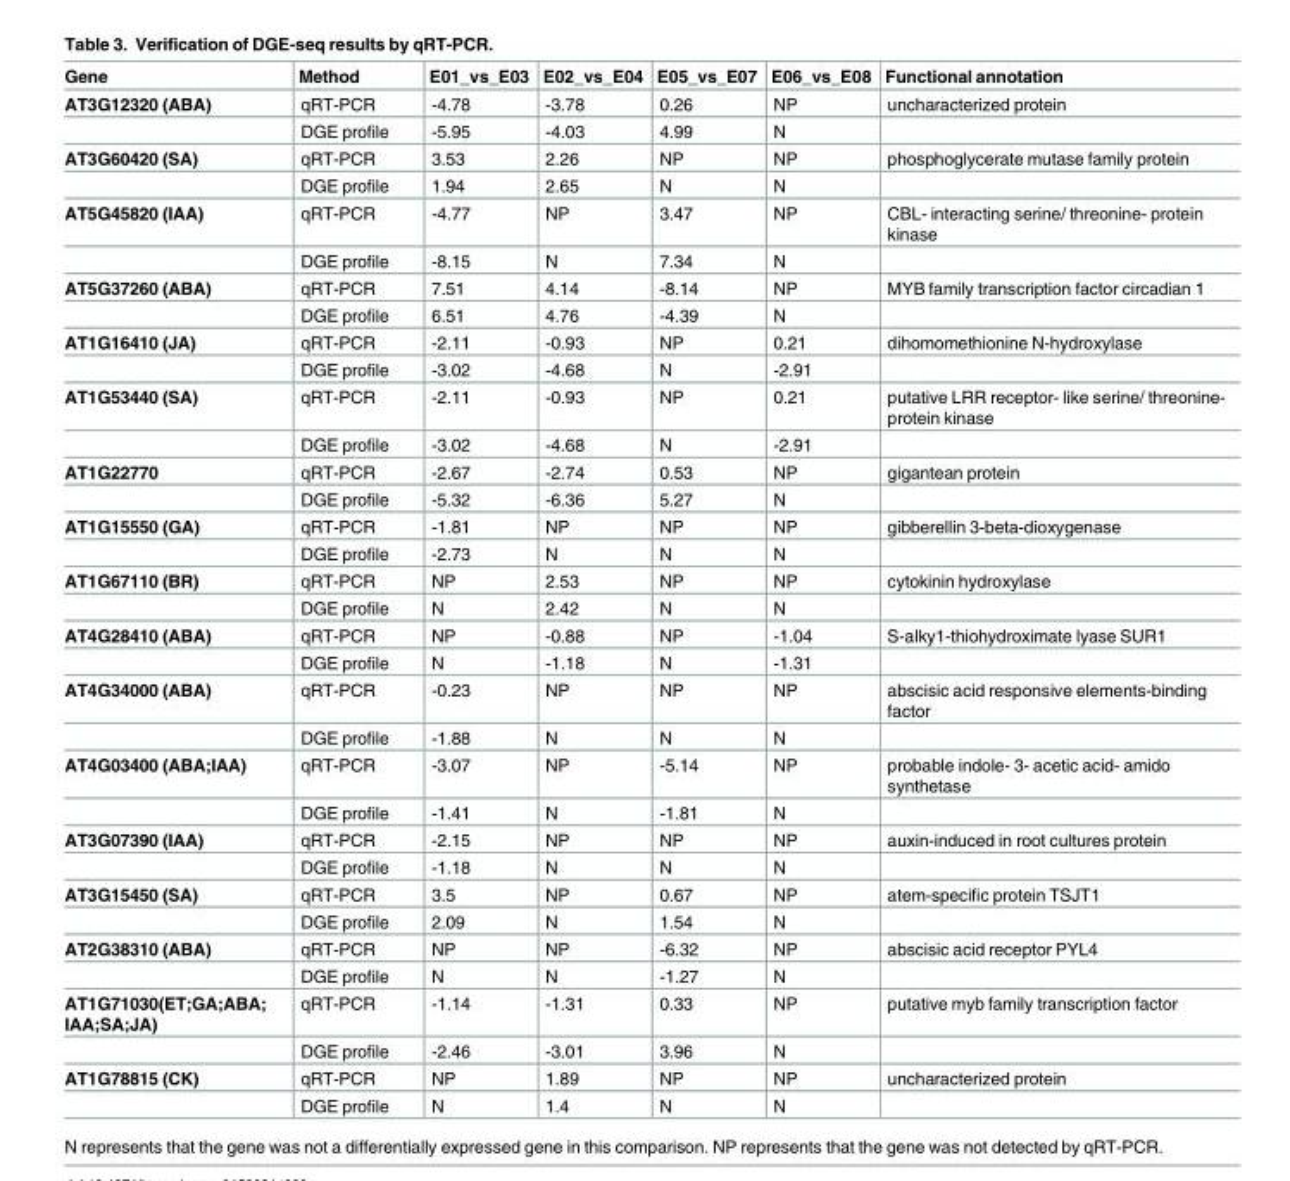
<table><thead><tr><td>Gene</td><td>Method</td><td>E01_vs_E03</td><td>E02_vs_E04</td><td>E05_vs_E07</td><td>E06_vs_E08</td><td>Functional annotation</td></tr></thead><tbody><tr><td rowspan="2">AT3G12320 (ABA)</td><td>qRT-PCR</td><td>-4.78</td><td>-3.78</td><td>0.26</td><td>NP</td><td>uncharacterized protein</td></tr><tr><td>DGE profile</td><td>-5.95</td><td>-4.03</td><td>4.99</td><td>N</td><td></td></tr><tr><td rowspan="2">AT3G60420 (SA)</td><td>qRT-PCR</td><td>3.53</td><td>2.26</td><td>NP</td><td>NP</td><td>phosphoglycerate mutase family protein</td></tr><tr><td>DGE profile</td><td>1.94</td><td>2.65</td><td>N</td><td>N</td><td></td></tr><tr><td rowspan="2">AT5G45820 (IAA)</td><td>qRT-PCR</td><td>-4.77</td><td>NP</td><td>3.47</td><td>NP</td><td>CBL- interacting serine/ threonine- protein kinase</td></tr><tr><td>DGE profile</td><td>-8.15</td><td>N</td><td>7.34</td><td>N</td><td></td></tr><tr><td rowspan="2">AT5G37260 (ABA)</td><td>qRT-PCR</td><td>7.51</td><td>4.14</td><td>-8.14</td><td>NP</td><td>MYB family transcription factor circadian 1</td></tr><tr><td>DGE profile</td><td>6.51</td><td>4.76</td><td>-4.39</td><td>N</td><td></td></tr><tr><td rowspan="2">AT1G16410 (JA)</td><td>qRT-PCR</td><td>-2.11</td><td>-0.93</td><td>NP</td><td>0.21</td><td>dihomomethionine N-hydroxylase</td></tr><tr><td>DGE profile</td><td>-3.02</td><td>-4.68</td><td>N</td><td>-2.91</td><td></td></tr><tr><td rowspan="2">AT1G53440 (SA)</td><td>qRT-PCR</td><td>-2.11</td><td>-0.93</td><td>NP</td><td>0.21</td><td>putative LRR receptor- like serine/ threonine- protein kinase</td></tr><tr><td>DGE profile</td><td>-3.02</td><td>-4.68</td><td>N</td><td>-2.91</td><td></td></tr><tr><td rowspan="2">AT1G22770</td><td>qRT-PCR</td><td>-2.67</td><td>-2.74</td><td>0.53</td><td>NP</td><td>gigantean protein</td></tr><tr><td>DGE profile</td><td>-5.32</td><td>-6.36</td><td>5.27</td><td>N</td><td></td></tr><tr><td rowspan="2">AT1G15550 (GA)</td><td>qRT-PCR</td><td>-1.81</td><td>NP</td><td>NP</td><td>NP</td><td>gibberellin 3-beta-dioxygenase</td></tr><tr><td>DGE profile</td><td>-2.73</td><td>N</td><td>N</td><td>N</td><td></td></tr><tr><td rowspan="2">AT1G67110 (BR)</td><td>qRT-PCR</td><td>NP</td><td>2.53</td><td>NP</td><td>NP</td><td>cytokinin hydroxylase</td></tr><tr><td>DGE profile</td><td>N</td><td>2.42</td><td>N</td><td>N</td><td></td></tr><tr><td rowspan="2">AT4G28410 (ABA)</td><td>qRT-PCR</td><td>NP</td><td>-0.88</td><td>NP</td><td>-1.04</td><td>S-alky1-thiohydroximate lyase SUR1</td></tr><tr><td>DGE profile</td><td>N</td><td>-1.18</td><td>N</td><td>-1.31</td><td></td></tr><tr><td rowspan="2">AT4G34000 (ABA)</td><td>qRT-PCR</td><td>-0.23</td><td>NP</td><td>NP</td><td>NP</td><td>abscisic acid responsive elements-binding factor</td></tr><tr><td>DGE profile</td><td>-1.88</td><td>N</td><td>N</td><td>N</td><td></td></tr><tr><td rowspan="2">AT4G03400 (ABA;IAA)</td><td>qRT-PCR</td><td>-3.07</td><td>NP</td><td>-5.14</td><td>NP</td><td>probable indole- 3- acetic acid- amido synthetase</td></tr><tr><td>DGE profile</td><td>-1.41</td><td>N</td><td>-1.81</td><td>N</td><td></td></tr><tr><td rowspan="2">AT3G07390 (IAA)</td><td>qRT-PCR</td><td>-2.15</td><td>NP</td><td>NP</td><td>NP</td><td>auxin-induced in root cultures protein</td></tr><tr><td>DGE profile</td><td>-1.18</td><td>N</td><td>N</td><td>N</td><td></td></tr><tr><td rowspan="2">AT3G15450 (SA)</td><td>qRT-PCR</td><td>3.5</td><td>NP</td><td>0.67</td><td>NP</td><td>atem-specific protein TSJT1</td></tr><tr><td>DGE profile</td><td>2.09</td><td>N</td><td>1.54</td><td>N</td><td></td></tr><tr><td rowspan="2">AT2G38310 (ABA)</td><td>qRT-PCR</td><td>NP</td><td>NP</td><td>-6.32</td><td>NP</td><td>abscisic acid receptor PYL4</td></tr><tr><td>DGE profile</td><td>N</td><td>N</td><td>-1.27</td><td>N</td><td></td></tr><tr><td rowspan="2">AT1G71030(ET;GA;ABA; IAA;SA;JA)</td><td>qRT-PCR</td><td>-1.14</td><td>-1.31</td><td>0.33</td><td>NP</td><td>putative myb family transcription factor</td></tr><tr><td>DGE profile</td><td>-2.46</td><td>-3.01</td><td>3.96</td><td>N</td><td></td></tr><tr><td rowspan="2">AT1G78815 (CK)</td><td>qRT-PCR</td><td>NP</td><td>1.89</td><td>NP</td><td>NP</td><td>uncharacterized protein</td></tr><tr><td>DGE profile</td><td>N</td><td>1.4</td><td>N</td><td>N</td><td></td></tr></tbody></table>